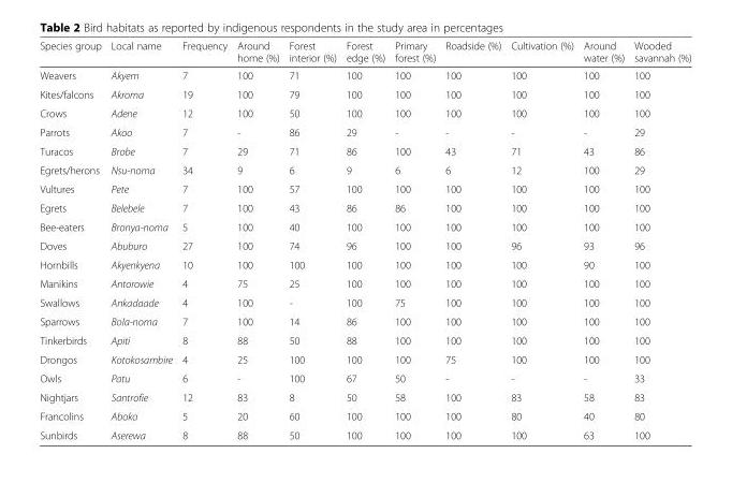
<table><thead><tr><td>Species group</td><td>Local name</td><td>Frequency</td><td>Around home (%)</td><td>Forest interior (%)</td><td>Forest edge (%)</td><td>Primary forest (%)</td><td>Roadside (%)</td><td>Cultivation (%)</td><td>Around water (%)</td><td>Wooded savannah (%)</td></tr></thead><tbody><tr><td>Weavers</td><td>Akyem</td><td>7</td><td>100</td><td>71</td><td>100</td><td>100</td><td>100</td><td>100</td><td>100</td><td>100</td></tr><tr><td>Kites/falcons</td><td>Akroma</td><td>19</td><td>100</td><td>79</td><td>100</td><td>100</td><td>100</td><td>100</td><td>100</td><td>100</td></tr><tr><td>Crows</td><td>Adene</td><td>12</td><td>100</td><td>50</td><td>100</td><td>100</td><td>100</td><td>100</td><td>100</td><td>100</td></tr><tr><td>Parrots</td><td>Akoo</td><td>7</td><td>-</td><td>86</td><td>29</td><td>-</td><td>-</td><td>-</td><td>-</td><td>29</td></tr><tr><td>Turacos</td><td>Brobe</td><td>7</td><td>29</td><td>71</td><td>86</td><td>100</td><td>43</td><td>71</td><td>43</td><td>86</td></tr><tr><td>Egrets/herons</td><td>Nsu-noma</td><td>34</td><td>9</td><td>6</td><td>9</td><td>6</td><td>6</td><td>12</td><td>100</td><td>29</td></tr><tr><td>Vultures</td><td>Pete</td><td>7</td><td>100</td><td>57</td><td>100</td><td>100</td><td>100</td><td>100</td><td>100</td><td>100</td></tr><tr><td>Egrets</td><td>Belebele</td><td>7</td><td>100</td><td>43</td><td>86</td><td>86</td><td>100</td><td>100</td><td>100</td><td>100</td></tr><tr><td>Bee-eaters</td><td>Bronya-noma</td><td>5</td><td>100</td><td>40</td><td>100</td><td>100</td><td>100</td><td>100</td><td>100</td><td>100</td></tr><tr><td>Doves</td><td>Abuburo</td><td>27</td><td>100</td><td>74</td><td>96</td><td>100</td><td>100</td><td>96</td><td>93</td><td>96</td></tr><tr><td>Hornbills</td><td>Akyenkyena</td><td>10</td><td>100</td><td>100</td><td>100</td><td>100</td><td>100</td><td>100</td><td>90</td><td>100</td></tr><tr><td>Manikins</td><td>Antorowie</td><td>4</td><td>75</td><td>25</td><td>100</td><td>100</td><td>100</td><td>100</td><td>100</td><td>100</td></tr><tr><td>Swallows</td><td>Ankadaade</td><td>4</td><td>100</td><td>-</td><td>100</td><td>75</td><td>100</td><td>100</td><td>100</td><td>100</td></tr><tr><td>Sparrows</td><td>Bola-noma</td><td>7</td><td>100</td><td>14</td><td>86</td><td>100</td><td>100</td><td>100</td><td>100</td><td>100</td></tr><tr><td>Tinkerbirds</td><td>Apiti</td><td>8</td><td>88</td><td>50</td><td>88</td><td>100</td><td>100</td><td>100</td><td>100</td><td>100</td></tr><tr><td>Drongos</td><td>Kotokosambire</td><td>4</td><td>25</td><td>100</td><td>100</td><td>100</td><td>75</td><td>100</td><td>100</td><td>100</td></tr><tr><td>Owls</td><td>Patu</td><td>6</td><td>-</td><td>100</td><td>67</td><td>50</td><td>-</td><td>-</td><td>-</td><td>33</td></tr><tr><td>Nightjars</td><td>Santrofie</td><td>12</td><td>83</td><td>8</td><td>50</td><td>58</td><td>100</td><td>83</td><td>58</td><td>83</td></tr><tr><td>Francolins</td><td>Aboko</td><td>5</td><td>20</td><td>60</td><td>100</td><td>100</td><td>100</td><td>80</td><td>40</td><td>80</td></tr><tr><td>Sunbirds</td><td>Aserewa</td><td>8</td><td>88</td><td>50</td><td>100</td><td>100</td><td>100</td><td>100</td><td>63</td><td>100</td></tr></tbody></table>